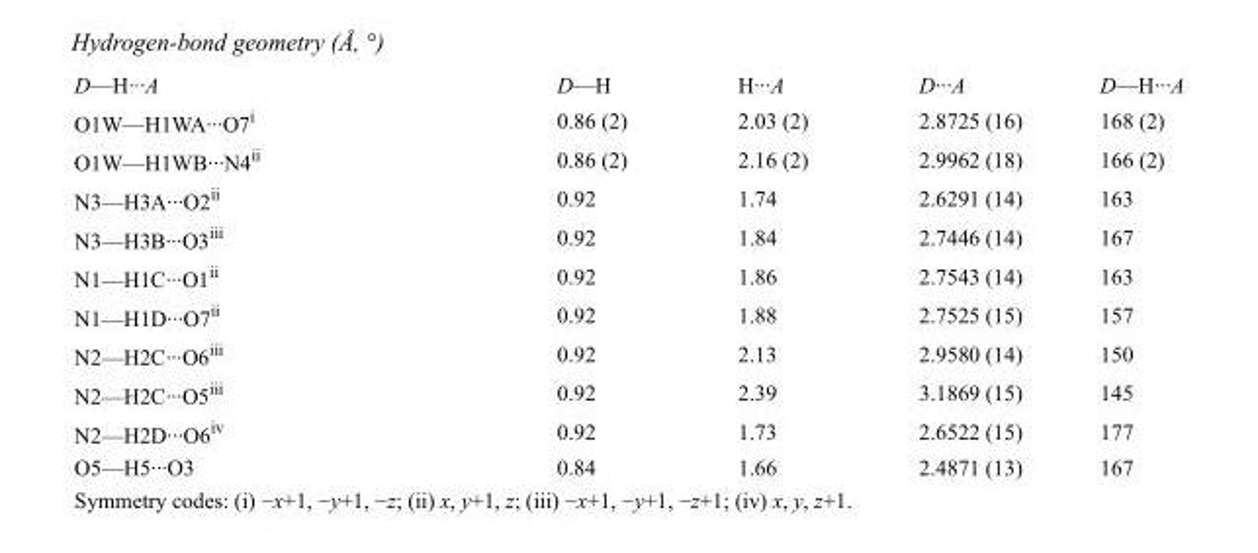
<table><tbody><tr><td>D—H···A</td><td>D—H</td><td>H···A</td><td>D···A</td><td>D—H···A</td></tr><tr><td>O1W—H1WA···O7<sup>i</sup></td><td>0.86 (2)</td><td>2.03 (2)</td><td>2.8725 (16)</td><td>168 (2)</td></tr><tr><td>O1W—H1WB···N4<sup>ii</sup></td><td>0.86 (2)</td><td>2.16 (2)</td><td>2.9962 (18)</td><td>166 (2)</td></tr><tr><td>N3—H3A···O2<sup>ii</sup></td><td>0.92</td><td>1.74</td><td>2.6291 (14)</td><td>163</td></tr><tr><td>N3—H3B···O3<sup>iii</sup></td><td>0.92</td><td>1.84</td><td>2.7446 (14)</td><td>167</td></tr><tr><td>N1—H1C···O1<sup>ii</sup></td><td>0.92</td><td>1.86</td><td>2.7543 (14)</td><td>163</td></tr><tr><td>N1—H1D···O7<sup>ii</sup></td><td>0.92</td><td>1.88</td><td>2.7525 (15)</td><td>157</td></tr><tr><td>N2—H2C···O6<sup>iii</sup></td><td>0.92</td><td>2.13</td><td>2.9580 (14)</td><td>150</td></tr><tr><td>N2—H2C···O5<sup>iii</sup></td><td>0.92</td><td>2.39</td><td>3.1869 (15)</td><td>145</td></tr><tr><td>N2—H2D···O6<sup>iv</sup></td><td>0.92</td><td>1.73</td><td>2.6522 (15)</td><td>177</td></tr><tr><td>O5—H5···O3</td><td>0.84</td><td>1.66</td><td>2.4871 (13)</td><td>167</td></tr></tbody></table>